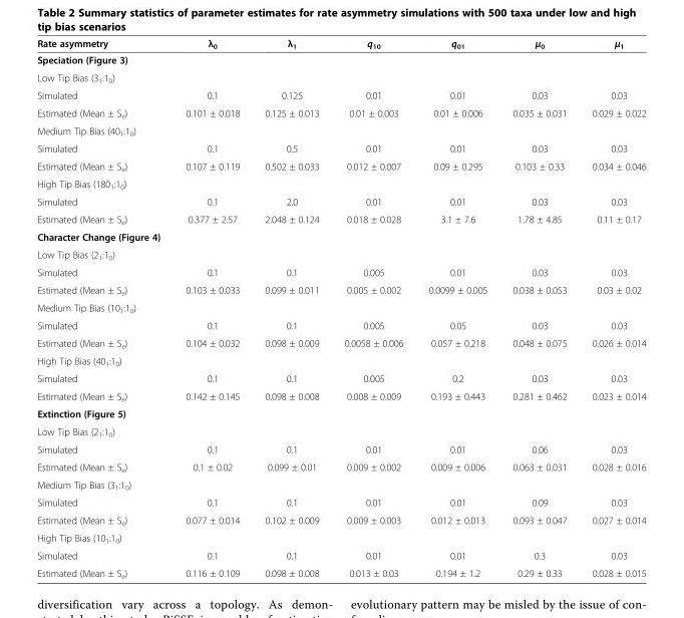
<table><thead><tr><td>Rate asymmetry</td><td>λ<sub>0</sub></td><td>λ<sub>1</sub></td><td>q<sub>10</sub></td><td>q<sub>01</sub></td><td>μ<sub>0</sub></td><td>μ<sub>1</sub></td></tr></thead><tbody><tr><td colspan="7">Speciation (Figure 3)</td></tr><tr><td colspan="7">Low Tip Bias (3<sub>1</sub>:1<sub>0</sub>)</td></tr><tr><td>Simulated</td><td>0.1</td><td>0.125</td><td>0.01</td><td>0.01</td><td>0.03</td><td>0.03</td></tr><tr><td>Estimated (Mean ± S<sub>e</sub>)</td><td>0.101 ± 0.018</td><td>0.125 ± 0.013</td><td>0.01 ± 0.003</td><td>0.01 ± 0.006</td><td>0.035 ± 0.031</td><td>0.029 ± 0.022</td></tr><tr><td colspan="7">Medium Tip Bias (40<sub>1</sub>:1<sub>0</sub>)</td></tr><tr><td>Simulated</td><td>0.1</td><td>0.5</td><td>0.01</td><td>0.01</td><td>0.03</td><td>0.03</td></tr><tr><td>Estimated (Mean ± S<sub>e</sub>)</td><td>0.107 ± 0.119</td><td>0.502 ± 0.033</td><td>0.012 ± 0.007</td><td>0.09 ± 0.295</td><td>0.103 ± 0.33</td><td>0.034 ± 0.046</td></tr><tr><td colspan="7">High Tip Bias (180<sub>1</sub>:1<sub>0</sub>)</td></tr><tr><td>Simulated</td><td>0.1</td><td>2.0</td><td>0.01</td><td>0.01</td><td>0.03</td><td>0.03</td></tr><tr><td>Estimated (Mean ± S<sub>e</sub>)</td><td>0.377 ± 2.57</td><td>2.048 ± 0.124</td><td>0.018 ± 0.028</td><td>3.1 ± 7.6</td><td>1.78 ± 4.85</td><td>0.11 ± 0.17</td></tr><tr><td colspan="7">Character Change (Figure 4)</td></tr><tr><td colspan="7">Low Tip Bias (2<sub>1</sub>:1<sub>0</sub>)</td></tr><tr><td>Simulated</td><td>0.1</td><td>0.1</td><td>0.005</td><td>0.01</td><td>0.03</td><td>0.03</td></tr><tr><td>Estimated (Mean ± S<sub>e</sub>)</td><td>0.103 ± 0.033</td><td>0.099 ± 0.011</td><td>0.005 ± 0.002</td><td>0.0099 ± 0.005</td><td>0.038 ± 0.053</td><td>0.03 ± 0.02</td></tr><tr><td colspan="7">Medium Tip Bias (10<sub>1</sub>:1<sub>0</sub>)</td></tr><tr><td>Simulated</td><td>0.1</td><td>0.1</td><td>0.005</td><td>0.05</td><td>0.03</td><td>0.03</td></tr><tr><td>Estimated (Mean ± S<sub>e</sub>)</td><td>0.104 ± 0.032</td><td>0.098 ± 0.009</td><td>0.0058 ± 0.006</td><td>0.057 ± 0.218</td><td>0.048 ± 0.075</td><td>0.026 ± 0.014</td></tr><tr><td colspan="7">High Tip Bias (40<sub>1</sub>:1<sub>0</sub>)</td></tr><tr><td>Simulated</td><td>0.1</td><td>0.1</td><td>0.005</td><td>0.2</td><td>0.03</td><td>0.03</td></tr><tr><td>Estimated (Mean ± S<sub>e</sub>)</td><td>0.142 ± 0.145</td><td>0.098 ± 0.008</td><td>0.008 ± 0.009</td><td>0.193 ± 0.443</td><td>0.281 ± 0.462</td><td>0.023 ± 0.014</td></tr><tr><td colspan="7">Extinction (Figure 5)</td></tr><tr><td colspan="7">Low Tip Bias (2<sub>1</sub>:1<sub>0</sub>)</td></tr><tr><td>Simulated</td><td>0.1</td><td>0.1</td><td>0.01</td><td>0.01</td><td>0.06</td><td>0.03</td></tr><tr><td>Estimated (Mean ± S<sub>e</sub>)</td><td>0.1 ± 0.02</td><td>0.099 ± 0.01</td><td>0.009 ± 0.002</td><td>0.009 ± 0.006</td><td>0.063 ± 0.031</td><td>0.028 ± 0.016</td></tr><tr><td colspan="7">Medium Tip Bias (3<sub>1</sub>:1<sub>0</sub>)</td></tr><tr><td>Simulated</td><td>0.1</td><td>0.1</td><td>0.01</td><td>0.01</td><td>0.09</td><td>0.03</td></tr><tr><td>Estimated (Mean ± S<sub>e</sub>)</td><td>0.077 ± 0.014</td><td>0.102 ± 0.009</td><td>0.009 ± 0.003</td><td>0.012 ± 0.013</td><td>0.093 ± 0.047</td><td>0.027 ± 0.014</td></tr><tr><td colspan="7">High Tip Bias (10<sub>1</sub>:1<sub>0</sub>)</td></tr><tr><td>Simulated</td><td>0.1</td><td>0.1</td><td>0.01</td><td>0.01</td><td>0.3</td><td>0.03</td></tr><tr><td>Estimated (Mean ± S<sub>e</sub>)</td><td>0.116 ± 0.109</td><td>0.098 ± 0.008</td><td>0.013 ± 0.03</td><td>0.194 ± 1.2</td><td>0.29 ± 0.33</td><td>0.028 ± 0.015</td></tr></tbody></table>